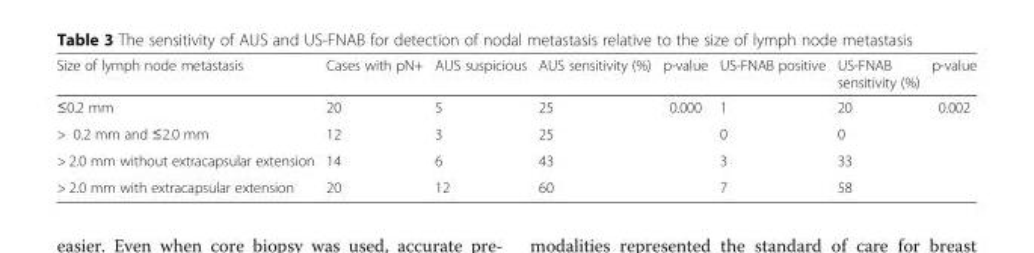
<table><thead><tr><td>Size of lymph node metastasis</td><td>Cases with pN+</td><td>AUS suspicious</td><td>AUS sensitivity (%)</td><td>p-value</td><td>US-FNAB positive</td><td>US-FNAB sensitivity (%)</td><td>p-value</td></tr></thead><tbody><tr><td>≤0.2 mm</td><td>20</td><td>5</td><td>25</td><td rowspan="4">0.000</td><td>1</td><td>20</td><td rowspan="4">0.002</td></tr><tr><td>&gt; 0.2 mm and ≤2.0 mm</td><td>12</td><td>3</td><td>25</td><td>0</td><td>0</td></tr><tr><td>&gt; 2.0 mm without extracapsular extension</td><td>14</td><td>6</td><td>43</td><td>3</td><td>33</td></tr><tr><td>&gt; 2.0 mm with extracapsular extension</td><td>20</td><td>12</td><td>60</td><td>7</td><td>58</td></tr></tbody></table>